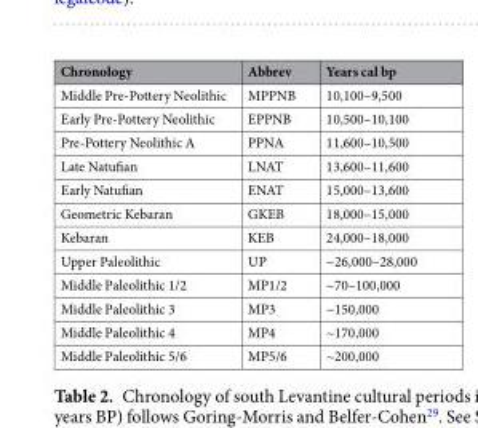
<table><thead><tr><td>Chronology</td><td>Abbrev</td><td>Years cal bp</td></tr></thead><tbody><tr><td>Middle Pre-Pottery Neolithic</td><td>MPPNB</td><td>10,100–9,500</td></tr><tr><td>Early Pre-Pottery Neolithic</td><td>EPPNB</td><td>10,500–10,100</td></tr><tr><td>Pre-Pottery Neolithic A</td><td>PPNA</td><td>11,600–10,500</td></tr><tr><td>Late Natufian</td><td>LNAT</td><td>13,600–11,600</td></tr><tr><td>Early Natufian</td><td>ENAT</td><td>15,000–13,600</td></tr><tr><td>Geometric Kebaran</td><td>GKEB</td><td>18,000–15,000</td></tr><tr><td>Kebaran</td><td>KEB</td><td>24,000–18,000</td></tr><tr><td>Upper Paleolithic</td><td>UP</td><td>~26,000–28,000</td></tr><tr><td>Middle Paleolithic 1/2</td><td>MP1/2</td><td>~70–100,000</td></tr><tr><td>Middle Paleolithic 3</td><td>MP3</td><td>~150,000</td></tr><tr><td>Middle Paleolithic 4</td><td>MP4</td><td>~170,000</td></tr><tr><td>Middle Paleolithic 5/6</td><td>MP5/6</td><td>~200,000</td></tr></tbody></table>